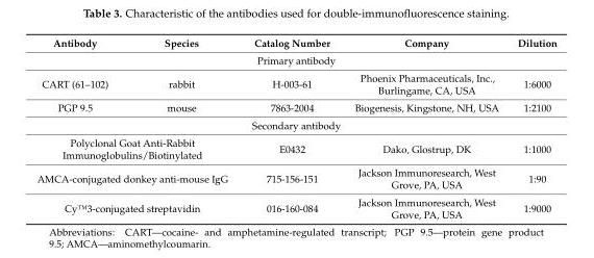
<table><thead><tr><td>Antibody</td><td>Species</td><td>Catalog Number</td><td>Company</td><td>Dilution</td></tr></thead><tbody><tr><td colspan="5">Primary antibody</td></tr><tr><td>CART (61–102)</td><td>rabbit</td><td>H-003-61</td><td>Phoenix Pharmaceuticals, Inc., Burlingame, CA, USA</td><td>1:6000</td></tr><tr><td>PGP 9.5</td><td>mouse</td><td>7863-2004</td><td>Biogenesis, Kingstone, NH, USA</td><td>1:2100</td></tr><tr><td colspan="5">Secondary antibody</td></tr><tr><td colspan="2">Polyclonal Goat Anti-Rabbit Immunoglobulins/Biotinylated</td><td>E0432</td><td>Dako, Glostrup, DK</td><td>1:1000</td></tr><tr><td colspan="2">AMCA-conjugated donkey anti-mouse IgG</td><td>715-156-151</td><td>Jackson Immunoresearch, West Grove, PA, USA</td><td>1:90</td></tr><tr><td colspan="2">Cy™3-conjugated streptavidin</td><td>016-160-084</td><td>Jackson Immunoresearch, West Grove, PA, USA</td><td>1:9000</td></tr></tbody></table>